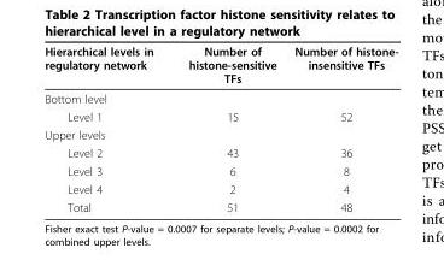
<table><thead><tr><td>Hierarchical levels in regulatory network</td><td>Number of histone-sensitive TFs</td><td>Number of histone- insensitive TFs</td></tr></thead><tbody><tr><td colspan="3">Bottom level</td></tr><tr><td>Level 1</td><td>15</td><td>52</td></tr><tr><td colspan="3">Upper levels</td></tr><tr><td>Level 2</td><td>43</td><td>36</td></tr><tr><td>Level 3</td><td>6</td><td>8</td></tr><tr><td>Level 4</td><td>2</td><td>4</td></tr><tr><td>Total</td><td>51</td><td>48</td></tr></tbody></table>